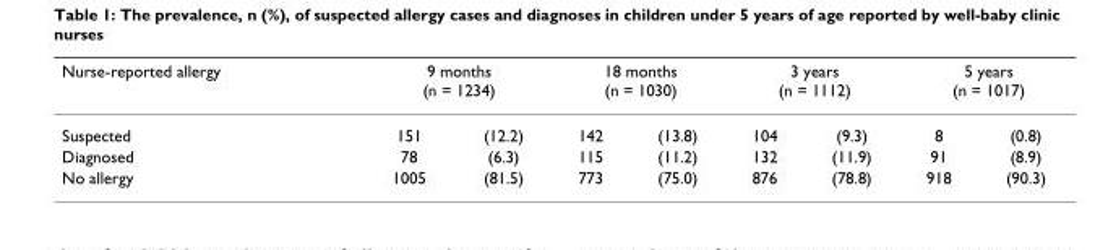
<table><thead><tr><td rowspan="2">Nurse-reported allergy Suspected</td><td colspan="2">9 months (n = 1234)</td><td colspan="2">18 months (n = 1030)</td><td colspan="2">3 years (n = 1112)</td><td colspan="2">5 years (n = 1017)</td></tr><tr><td>151</td><td>(12.2)</td><td>142</td><td>(13.8)</td><td>104</td><td>(9.3)</td><td>8</td><td>(0.8)</td></tr></thead><tbody><tr><td>Diagnosed</td><td>78</td><td>(6.3)</td><td>115</td><td>(11.2)</td><td>132</td><td>(11.9)</td><td>91</td><td>(8.9)</td></tr><tr><td>No allergy</td><td>1005</td><td>(81.5)</td><td>773</td><td>(75.0)</td><td>876</td><td>(78.8)</td><td>918</td><td>(90.3)</td></tr></tbody></table>